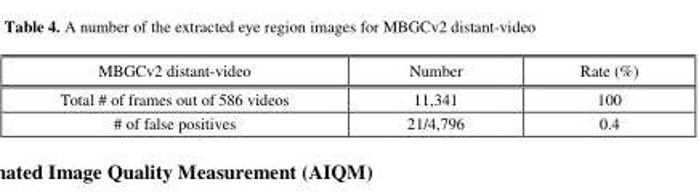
<table><thead><tr><td>MBGCv2 distant-video</td><td>Number</td><td>Rate (%)</td></tr></thead><tbody><tr><td>Total # of frames out of 586 videos</td><td>11,341</td><td>100</td></tr><tr><td># of false positives</td><td>21/4,796</td><td>0.4</td></tr></tbody></table>